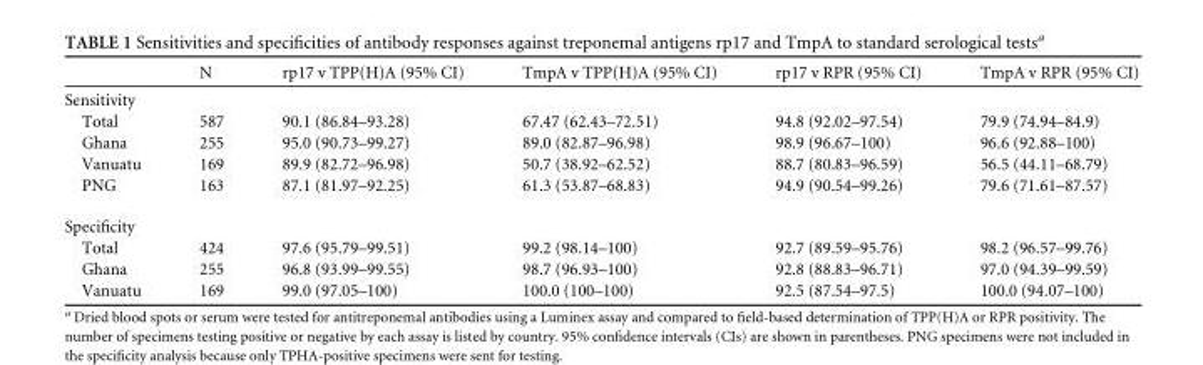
<table><thead><tr><td></td><td>N</td><td>rp17 v TPP(H)A (95% CI)</td><td>TmpA v TPP(H)A (95% CI)</td><td>rp17 v RPR (95% CI)</td><td>TmpA v RPR (95% CI)</td></tr></thead><tbody><tr><td colspan="6">Sensitivity</td></tr><tr><td>Total</td><td>587</td><td>90.1 (86.84–93.28)</td><td>67.47 (62.43–72.51)</td><td>94.8 (92.02–97.54)</td><td>79.9 (74.94–84.9)</td></tr><tr><td>Ghana</td><td>255</td><td>95.0 (90.73–99.27)</td><td>89.0 (82.87–96.98)</td><td>98.9 (96.67–100)</td><td>96.6 (92.88–100)</td></tr><tr><td>Vanuatu</td><td>169</td><td>89.9 (82.72–96.98)</td><td>50.7 (38.92–62.52)</td><td>88.7 (80.83–96.59)</td><td>56.5 (44.11–68.79)</td></tr><tr><td>PNG</td><td>163</td><td>87.1 (81.97–92.25)</td><td>61.3 (53.87–68.83)</td><td>94.9 (90.54–99.26)</td><td>79.6 (71.61–87.57)</td></tr><tr><td colspan="6">Specificity</td></tr><tr><td>Total</td><td>424</td><td>97.6 (95.79–99.51)</td><td>99.2 (98.14–100)</td><td>92.7 (89.59–95.76)</td><td>98.2 (96.57–99.76)</td></tr><tr><td>Ghana</td><td>255</td><td>96.8 (93.99–99.55)</td><td>98.7 (96.93–100)</td><td>92.8 (88.83–96.71)</td><td>97.0 (94.39–99.59)</td></tr><tr><td>Vanuatu</td><td>169</td><td>99.0 (97.05–100)</td><td>100.0 (100–100)</td><td>92.5 (87.54–97.5)</td><td>100.0 (94.07–100)</td></tr></tbody></table>